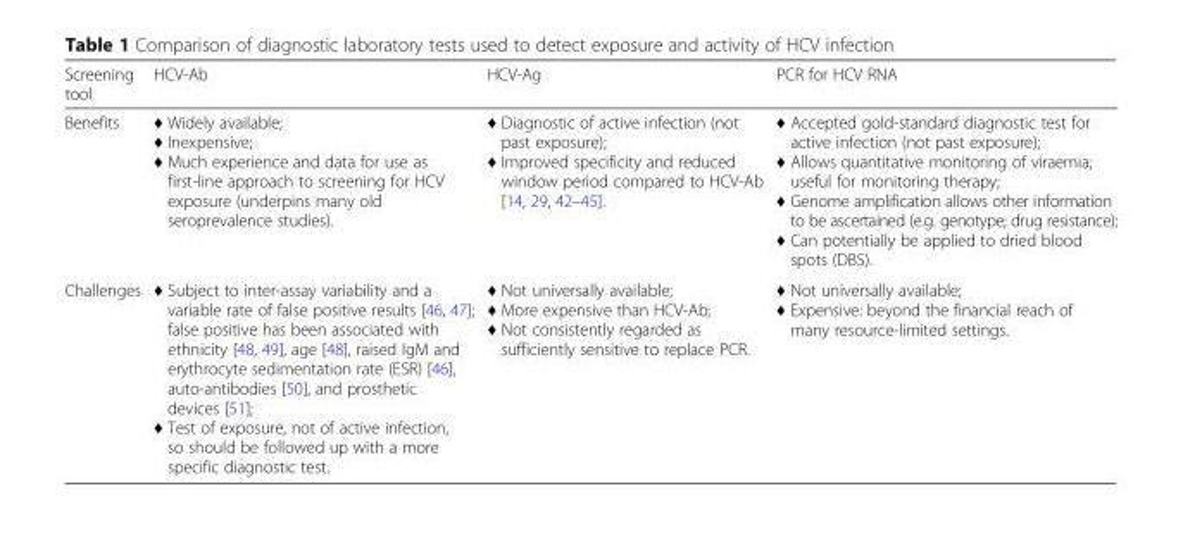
<table><thead><tr><td>Screening tool</td><td>HCV-Ab</td><td>HCV-Ag</td><td>PCR for HCV RNA</td></tr></thead><tbody><tr><td>Benefits</td><td>♦ Widely available; ♦ Inexpensive; ♦ Much experience and data for use as first-line approach to screening for HCV exposure (underpins many old seroprevalence studies).</td><td>♦ Diagnostic of active infection (not past exposure); ♦ Improved specificity and reduced window period compared to HCV-Ab [14, 29, 42–45].</td><td>♦ Accepted gold-standard diagnostic test for active infection (not past exposure); ♦ Allows quantitative monitoring of viraemia; useful for monitoring therapy; ♦ Genome amplification allows other information to be ascertained (e.g. genotype; drug resistance); ♦ Can potentially be applied to dried blood spots (DBS).</td></tr><tr><td>Challenges</td><td>♦ Subject to inter-assay variability and a variable rate of false positive results [46, 47]; false positive has been associated with ethnicity [48, 49], age [48], raised IgM and erythrocyte sedimentation rate (ESR) [46], auto-antibodies [50], and prosthetic devices [51]; ♦ Test of exposure, not of active infection, so should be followed up with a more specific diagnostic test.</td><td>♦ Not universally available; ♦ More expensive than HCV-Ab; ♦ Not consistently regarded as sufficiently sensitive to replace PCR.</td><td>♦ Not universally available; ♦ Expensive: beyond the financial reach of many resource-limited settings.</td></tr></tbody></table>